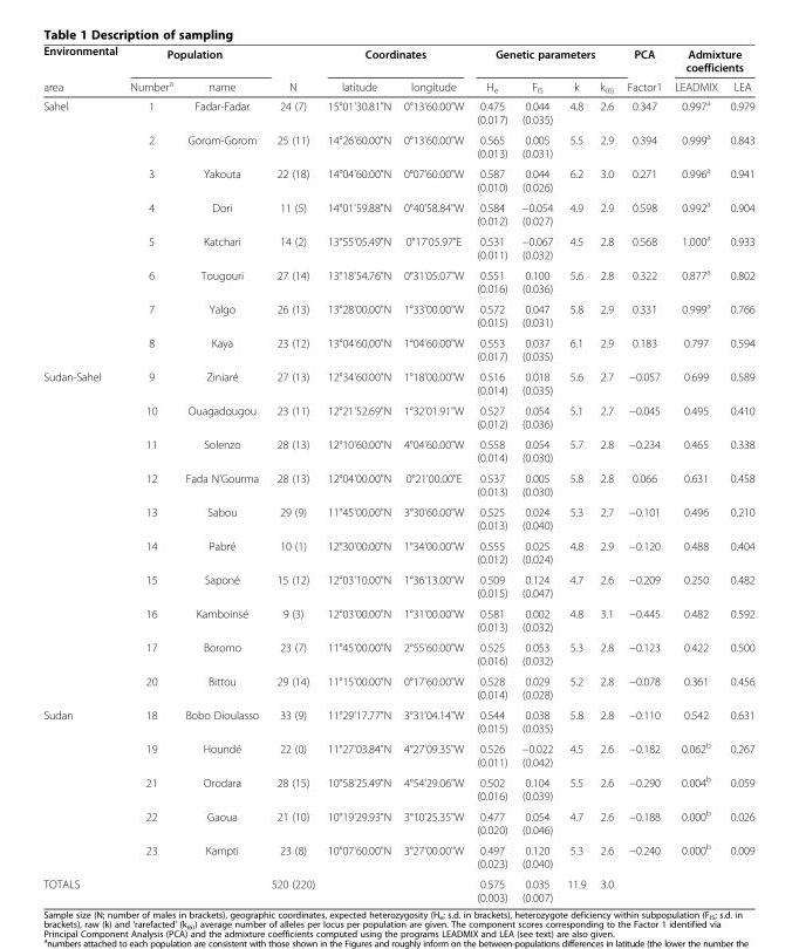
<table><thead><tr><td rowspan="2">Environmental area</td><td colspan="2">Population</td><td rowspan="2">N</td><td colspan="2">Coordinates</td><td colspan="4">Genetic parameters</td><td rowspan="2">PCA Factor1</td><td colspan="2">Admixture coefficients</td></tr><tr><td>Number<sup>a</sup></td><td>name</td><td>latitude</td><td>longitude</td><td>H<sub>e</sub></td><td>F<sub>IS</sub></td><td>k</td><td>k<sub>(6)</sub></td><td>LEADMIX</td><td>LEA</td></tr></thead><tbody><tr><td rowspan="8">Sahel</td><td>1</td><td>Fadar-Fadar</td><td>24 (7)</td><td>15°01&#x27;30.81&quot;N</td><td>0°13&#x27;60.00&quot;W</td><td>0.475 (0.017)</td><td>0.044 (0.035)</td><td>4.8</td><td>2.6</td><td>0.347</td><td>0.997<sup>a</sup></td><td>0.979</td></tr><tr><td>2</td><td>Gorom-Gorom</td><td>25 (11)</td><td>14°26&#x27;60.00&quot;N</td><td>0°13&#x27;60.00&quot;W</td><td>0.565 (0.013)</td><td>0.005 (0.031)</td><td>5.5</td><td>2.9</td><td>0.394</td><td>0.999<sup>a</sup></td><td>0.843</td></tr><tr><td>3</td><td>Yakouta</td><td>22 (18)</td><td>14°04&#x27;60.00&quot;N</td><td>0°07&#x27;60.00&quot;W</td><td>0.587 (0.010)</td><td>0.044 (0.026)</td><td>6.2</td><td>3.0</td><td>0.271</td><td>0.996<sup>a</sup></td><td>0.941</td></tr><tr><td>4</td><td>Dori</td><td>11 (5)</td><td>14°01&#x27;59.88&quot;N</td><td>0°40&#x27;58.84&quot;W</td><td>0.584 (0.012)</td><td>−0.054 (0.027)</td><td>4.9</td><td>2.9</td><td>0.598</td><td>0.992<sup>a</sup></td><td>0.904</td></tr><tr><td>5</td><td>Katchari</td><td>14 (2)</td><td>13°55&#x27;05.49&quot;N</td><td>0°17&#x27;05.97&quot;E</td><td>0.531 (0.011)</td><td>−0.067 (0.032)</td><td>4.5</td><td>2.8</td><td>0.568</td><td>1.000<sup>a</sup></td><td>0.933</td></tr><tr><td>6</td><td>Tougouri</td><td>27 (14)</td><td>13°18&#x27;54.76&quot;N</td><td>0°31&#x27;05.07&quot;W</td><td>0.551 (0.016)</td><td>0.100 (0.036)</td><td>5.6</td><td>2.8</td><td>0.322</td><td>0.877<sup>a</sup></td><td>0.802</td></tr><tr><td>7</td><td>Yalgo</td><td>26 (13)</td><td>13°28&#x27;00.00&quot;N</td><td>1°33&#x27;00.00&quot;W</td><td>0.572 (0.015)</td><td>0.047 (0.031)</td><td>5.8</td><td>2.9</td><td>0.331</td><td>0.999<sup>a</sup></td><td>0.766</td></tr><tr><td>8</td><td>Kaya</td><td>23 (12)</td><td>13°04&#x27;60.00&quot;N</td><td>1°04&#x27;60.00&quot;W</td><td>0.553 (0.017)</td><td>0.037 (0.035)</td><td>6.1</td><td>2.9</td><td>0.183</td><td>0.797</td><td>0.594</td></tr><tr><td rowspan="10">Sudan-Sahel</td><td>9</td><td>Ziniaré</td><td>27 (13)</td><td>12°34&#x27;60.00&quot;N</td><td>1°18&#x27;00.00&quot;W</td><td>0.516 (0.014)</td><td>0.018 (0.035)</td><td>5.6</td><td>2.7</td><td>−0.057</td><td>0.699</td><td>0.589</td></tr><tr><td>10</td><td>Ouagadougou</td><td>23 (11)</td><td>12°21&#x27;52.69&quot;N</td><td>1°32&#x27;01.91&quot;W</td><td>0.527 (0.012)</td><td>0.054 (0.036)</td><td>5.1</td><td>2.7</td><td>−0.045</td><td>0.495</td><td>0.410</td></tr><tr><td>11</td><td>Solenzo</td><td>28 (13)</td><td>12°10&#x27;60.00&quot;N</td><td>4°04&#x27;60.00&quot;W</td><td>0.558 (0.014)</td><td>0.054 (0.030)</td><td>5.7</td><td>2.8</td><td>−0.234</td><td>0.465</td><td>0.338</td></tr><tr><td>12</td><td>Fada N’Gourma</td><td>28 (13)</td><td>12°04&#x27;00.00&quot;N</td><td>0°21&#x27;00.00&quot;E</td><td>0.537 (0.013)</td><td>0.005 (0.030)</td><td>5.8</td><td>2.8</td><td>0.066</td><td>0.631</td><td>0.458</td></tr><tr><td>13</td><td>Sabou</td><td>29 (9)</td><td>11°45&#x27;00.00&quot;N</td><td>3°30&#x27;60.00&quot;W</td><td>0.525 (0.013)</td><td>0.024 (0.040)</td><td>5.3</td><td>2.7</td><td>−0.101</td><td>0.496</td><td>0.210</td></tr><tr><td>14</td><td>Pabré</td><td>10 (1)</td><td>12°30&#x27;00.00&quot;N</td><td>1°34&#x27;00.00&quot;W</td><td>0.555 (0.012)</td><td>0.025 (0.024)</td><td>4.8</td><td>2.9</td><td>−0.120</td><td>0.488</td><td>0.404</td></tr><tr><td>15</td><td>Saponé</td><td>15 (12)</td><td>12°03&#x27;10.00&quot;N</td><td>1°36&#x27;13.00&quot;W</td><td>0.509 (0.015)</td><td>0.124 (0.047)</td><td>4.7</td><td>2.6</td><td>−0.209</td><td>0.250</td><td>0.482</td></tr><tr><td>16</td><td>Kamboinsé</td><td>9 (3)</td><td>12°03&#x27;00.00&quot;N</td><td>1°31&#x27;00.00&quot;W</td><td>0.581 (0.013)</td><td>0.002 (0.032)</td><td>4.8</td><td>3.1</td><td>−0.445</td><td>0.482</td><td>0.592</td></tr><tr><td>17</td><td>Boromo</td><td>23 (7)</td><td>11°45&#x27;00.00&quot;N</td><td>2°55&#x27;60.00&quot;W</td><td>0.525 (0.016)</td><td>0.053 (0.032)</td><td>5.3</td><td>2.8</td><td>−0.123</td><td>0.422</td><td>0.500</td></tr><tr><td>20</td><td>Bittou</td><td>29 (14)</td><td>11°15&#x27;00.00&quot;N</td><td>0°17&#x27;60.00&quot;W</td><td>0.528 (0.014)</td><td>0.029 (0.028)</td><td>5.2</td><td>2.8</td><td>−0.078</td><td>0.361</td><td>0.456</td></tr><tr><td rowspan="5">Sudan</td><td>18</td><td>Bobo Dioulasso</td><td>33 (9)</td><td>11°29&#x27;17.77&quot;N</td><td>3°31&#x27;04.14&quot;W</td><td>0.544 (0.015)</td><td>0.038 (0.035)</td><td>5.8</td><td>2.8</td><td>−0.110</td><td>0.542</td><td>0.631</td></tr><tr><td>19</td><td>Houndé</td><td>22 (0)</td><td>11°27&#x27;03.84&quot;N</td><td>4°27&#x27;09.35&quot;W</td><td>0.526 (0.011)</td><td>−0.022 (0.042)</td><td>4.5</td><td>2.6</td><td>−0.182</td><td>0.062<sup>b</sup></td><td>0.267</td></tr><tr><td>21</td><td>Orodara</td><td>28 (15)</td><td>10°58&#x27;25.49&quot;N</td><td>4°54&#x27;29.06&quot;W</td><td>0.502 (0.016)</td><td>0.104 (0.039)</td><td>5.5</td><td>2.6</td><td>−0.290</td><td>0.004<sup>b</sup></td><td>0.059</td></tr><tr><td>22</td><td>Gaoua</td><td>21 (10)</td><td>10°19&#x27;29.93&quot;N</td><td>3°10&#x27;25.35&quot;W</td><td>0.477 (0.020)</td><td>0.054 (0.046)</td><td>4.7</td><td>2.6</td><td>−0.188</td><td>0.000<sup>b</sup></td><td>0.026</td></tr><tr><td>23</td><td>Kampti</td><td>23 (8)</td><td>10°07&#x27;60.00&quot;N</td><td>3°27&#x27;00.00&quot;W</td><td>0.497 (0.023)</td><td>0.120 (0.040)</td><td>5.3</td><td>2.6</td><td>−0.240</td><td>0.000<sup>b</sup></td><td>0.009</td></tr><tr><td>TOTALS</td><td></td><td></td><td>520 (220)</td><td></td><td></td><td>0.575 (0.003)</td><td>0.035 (0.007)</td><td>11.9</td><td>3.0</td><td></td><td></td><td></td></tr></tbody></table>